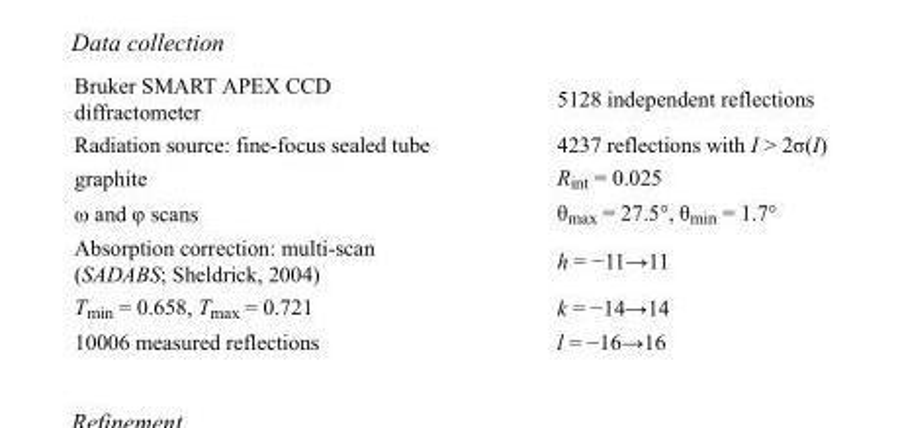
<table><tbody><tr><td>Bruker SMART APEX CCD diffractometer</td><td>5128 independent reflections</td></tr><tr><td>Radiation source: fine-focus sealed tube</td><td>4237 reflections with I &gt; 2σ(I)</td></tr><tr><td>graphite</td><td>R<sub>int</sub> = 0.025</td></tr><tr><td>ω and φ scans</td><td>θ<sub>max</sub> = 27.5°, θ<sub>min</sub> = 1.7°</td></tr><tr><td>Absorption correction: multi-scan (SADABS; Sheldrick, 2004)</td><td>h = −11→11</td></tr><tr><td>T<sub>min</sub> = 0.658, T<sub>max</sub> = 0.721</td><td>k = −14→14</td></tr><tr><td>10006 measured reflections</td><td>l = −16→16</td></tr></tbody></table>